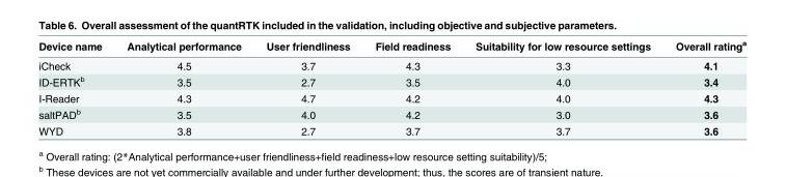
<table><thead><tr><td>Device name</td><td>Analytical performance</td><td>User friendliness</td><td>Field readiness</td><td>Suitability for low resource settings</td><td>Overall rating<sup>a</sup></td></tr></thead><tbody><tr><td>iCheck</td><td>4.5</td><td>3.7</td><td>4.3</td><td>3.3</td><td>4.1</td></tr><tr><td>ID-ERTK<sup>b</sup></td><td>3.5</td><td>2.7</td><td>3.5</td><td>4.0</td><td>3.4</td></tr><tr><td>I-Reader</td><td>4.3</td><td>4.7</td><td>4.2</td><td>4.0</td><td>4.3</td></tr><tr><td>saltPAD<sup>b</sup></td><td>3.5</td><td>4.0</td><td>4.2</td><td>3.0</td><td>3.6</td></tr><tr><td>WYD</td><td>3.8</td><td>2.7</td><td>3.7</td><td>3.7</td><td>3.6</td></tr></tbody></table>